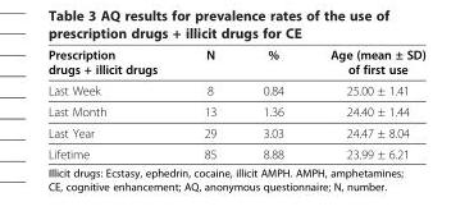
<table><thead><tr><td>Prescription drugs + illicit drugs</td><td>N</td><td>%</td><td>Age (mean ± SD) of first use</td></tr></thead><tbody><tr><td>Last Week</td><td>8</td><td>0.84</td><td>25.00 ± 1.41</td></tr><tr><td>Last Month</td><td>13</td><td>1.36</td><td>24.40 ± 1.44</td></tr><tr><td>Last Year</td><td>29</td><td>3.03</td><td>24.47 ± 8.04</td></tr><tr><td>Lifetime</td><td>85</td><td>8.88</td><td>23.99 ± 6.21</td></tr></tbody></table>